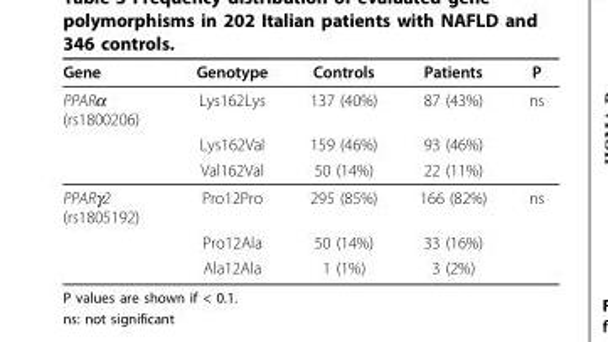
<table><thead><tr><td>Gene</td><td>Genotype</td><td>Controls</td><td>Patients</td><td>P</td></tr></thead><tbody><tr><td rowspan="3">PPARα (rs1800206)</td><td>Lys162Lys</td><td>137 (40%)</td><td>87 (43%)</td><td>ns</td></tr><tr><td>Lys162Val</td><td>159 (46%)</td><td>93 (46%)</td><td></td></tr><tr><td>Val162Val</td><td>50 (14%)</td><td>22 (11%)</td><td></td></tr><tr><td rowspan="3">PPARγ2 (rs1805192)</td><td>Pro12Pro</td><td>295 (85%)</td><td>166 (82%)</td><td>ns</td></tr><tr><td>Pro12Ala</td><td>50 (14%)</td><td>33 (16%)</td><td></td></tr><tr><td>Ala12Ala</td><td>1 (1%)</td><td>3 (2%)</td><td></td></tr></tbody></table>